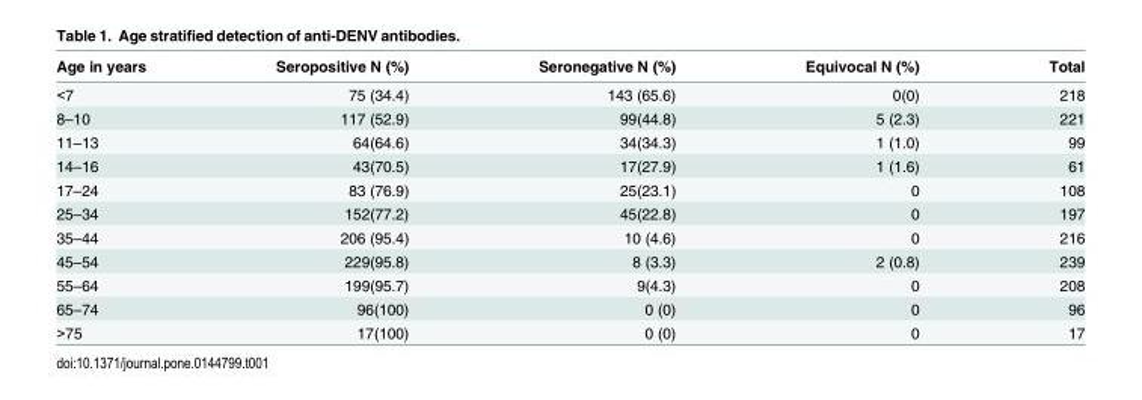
<table><thead><tr><td>Age in years</td><td>Seropositive N (%)</td><td>Seronegative N (%)</td><td>Equivocal N (%)</td><td>Total</td></tr></thead><tbody><tr><td>&lt;7</td><td>75 (34.4)</td><td>143 (65.6)</td><td>0(0)</td><td>218</td></tr><tr><td>8–10</td><td>117 (52.9)</td><td>99(44.8)</td><td>5 (2.3)</td><td>221</td></tr><tr><td>11–13</td><td>64(64.6)</td><td>34(34.3)</td><td>1 (1.0)</td><td>99</td></tr><tr><td>14–16</td><td>43(70.5)</td><td>17(27.9)</td><td>1 (1.6)</td><td>61</td></tr><tr><td>17–24</td><td>83 (76.9)</td><td>25(23.1)</td><td>0</td><td>108</td></tr><tr><td>25–34</td><td>152(77.2)</td><td>45(22.8)</td><td>0</td><td>197</td></tr><tr><td>35–44</td><td>206 (95.4)</td><td>10 (4.6)</td><td>0</td><td>216</td></tr><tr><td>45–54</td><td>229(95.8)</td><td>8 (3.3)</td><td>2 (0.8)</td><td>239</td></tr><tr><td>55–64</td><td>199(95.7)</td><td>9(4.3)</td><td>0</td><td>208</td></tr><tr><td>65–74</td><td>96(100)</td><td>0 (0)</td><td>0</td><td>96</td></tr><tr><td>&gt;75</td><td>17(100)</td><td>0 (0)</td><td>0</td><td>17</td></tr></tbody></table>